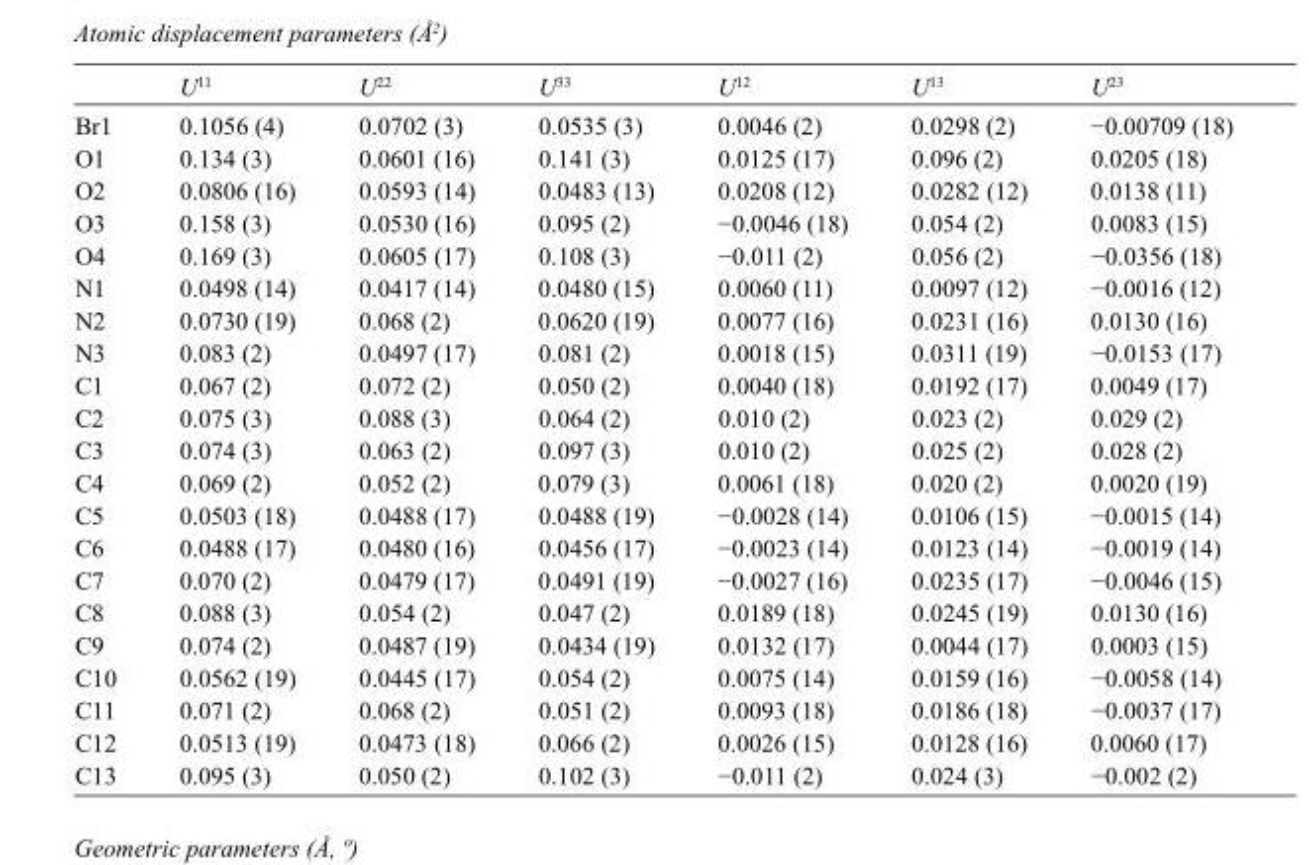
<table><thead><tr><td></td><td>U<sup>11</sup></td><td>U<sup>22</sup></td><td>U<sup>33</sup></td><td>U<sup>12</sup></td><td>U<sup>13</sup></td><td>U<sup>23</sup></td></tr></thead><tbody><tr><td>Br1</td><td>0.1056 (4)</td><td>0.0702 (3)</td><td>0.0535 (3)</td><td>0.0046 (2)</td><td>0.0298 (2)</td><td>−0.00709 (18)</td></tr><tr><td>O1</td><td>0.134 (3)</td><td>0.0601 (16)</td><td>0.141 (3)</td><td>0.0125 (17)</td><td>0.096 (2)</td><td>0.0205 (18)</td></tr><tr><td>O2</td><td>0.0806 (16)</td><td>0.0593 (14)</td><td>0.0483 (13)</td><td>0.0208 (12)</td><td>0.0282 (12)</td><td>0.0138 (11)</td></tr><tr><td>O3</td><td>0.158 (3)</td><td>0.0530 (16)</td><td>0.095 (2)</td><td>−0.0046 (18)</td><td>0.054 (2)</td><td>0.0083 (15)</td></tr><tr><td>O4</td><td>0.169 (3)</td><td>0.0605 (17)</td><td>0.108 (3)</td><td>−0.011 (2)</td><td>0.056 (2)</td><td>−0.0356 (18)</td></tr><tr><td>N1</td><td>0.0498 (14)</td><td>0.0417 (14)</td><td>0.0480 (15)</td><td>0.0060 (11)</td><td>0.0097 (12)</td><td>−0.0016 (12)</td></tr><tr><td>N2</td><td>0.0730 (19)</td><td>0.068 (2)</td><td>0.0620 (19)</td><td>0.0077 (16)</td><td>0.0231 (16)</td><td>0.0130 (16)</td></tr><tr><td>N3</td><td>0.083 (2)</td><td>0.0497 (17)</td><td>0.081 (2)</td><td>0.0018 (15)</td><td>0.0311 (19)</td><td>−0.0153 (17)</td></tr><tr><td>C1</td><td>0.067 (2)</td><td>0.072 (2)</td><td>0.050 (2)</td><td>0.0040 (18)</td><td>0.0192 (17)</td><td>0.0049 (17)</td></tr><tr><td>C2</td><td>0.075 (3)</td><td>0.088 (3)</td><td>0.064 (2)</td><td>0.010 (2)</td><td>0.023 (2)</td><td>0.029 (2)</td></tr><tr><td>C3</td><td>0.074 (3)</td><td>0.063 (2)</td><td>0.097 (3)</td><td>0.010 (2)</td><td>0.025 (2)</td><td>0.028 (2)</td></tr><tr><td>C4</td><td>0.069 (2)</td><td>0.052 (2)</td><td>0.079 (3)</td><td>0.0061 (18)</td><td>0.020 (2)</td><td>0.0020 (19)</td></tr><tr><td>C5</td><td>0.0503 (18)</td><td>0.0488 (17)</td><td>0.0488 (19)</td><td>−0.0028 (14)</td><td>0.0106 (15)</td><td>−0.0015 (14)</td></tr><tr><td>C6</td><td>0.0488 (17)</td><td>0.0480 (16)</td><td>0.0456 (17)</td><td>−0.0023 (14)</td><td>0.0123 (14)</td><td>−0.0019 (14)</td></tr><tr><td>C7</td><td>0.070 (2)</td><td>0.0479 (17)</td><td>0.0491 (19)</td><td>−0.0027 (16)</td><td>0.0235 (17)</td><td>−0.0046 (15)</td></tr><tr><td>C8</td><td>0.088 (3)</td><td>0.054 (2)</td><td>0.047 (2)</td><td>0.0189 (18)</td><td>0.0245 (19)</td><td>0.0130 (16)</td></tr><tr><td>C9</td><td>0.074 (2)</td><td>0.0487 (19)</td><td>0.0434 (19)</td><td>0.0132 (17)</td><td>0.0044 (17)</td><td>0.0003 (15)</td></tr><tr><td>C10</td><td>0.0562 (19)</td><td>0.0445 (17)</td><td>0.054 (2)</td><td>0.0075 (14)</td><td>0.0159 (16)</td><td>−0.0058 (14)</td></tr><tr><td>C11</td><td>0.071 (2)</td><td>0.068 (2)</td><td>0.051 (2)</td><td>0.0093 (18)</td><td>0.0186 (18)</td><td>−0.0037 (17)</td></tr><tr><td>C12</td><td>0.0513 (19)</td><td>0.0473 (18)</td><td>0.066 (2)</td><td>0.0026 (15)</td><td>0.0128 (16)</td><td>0.0060 (17)</td></tr><tr><td>C13</td><td>0.095 (3)</td><td>0.050 (2)</td><td>0.102 (3)</td><td>−0.011 (2)</td><td>0.024 (3)</td><td>−0.002 (2)</td></tr></tbody></table>